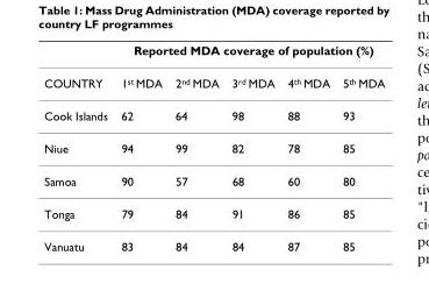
<table><thead><tr><td rowspan="2">COUNTRY</td><td colspan="5">Reported MDA coverage of population (%)</td></tr><tr><td>1<sup>st</sup> MDA</td><td>2<sup>nd</sup> MDA</td><td>3<sup>rd</sup> MDA</td><td>4<sup>th</sup> MDA</td><td>5<sup>th</sup> MDA</td></tr></thead><tbody><tr><td>Cook Islands</td><td>62</td><td>64</td><td>98</td><td>88</td><td>93</td></tr><tr><td>Niue</td><td>94</td><td>99</td><td>82</td><td>78</td><td>85</td></tr><tr><td>Samoa</td><td>90</td><td>57</td><td>68</td><td>60</td><td>80</td></tr><tr><td>Tonga</td><td>79</td><td>84</td><td>91</td><td>86</td><td>85</td></tr><tr><td>Vanuatu</td><td>83</td><td>84</td><td>84</td><td>87</td><td>85</td></tr></tbody></table>